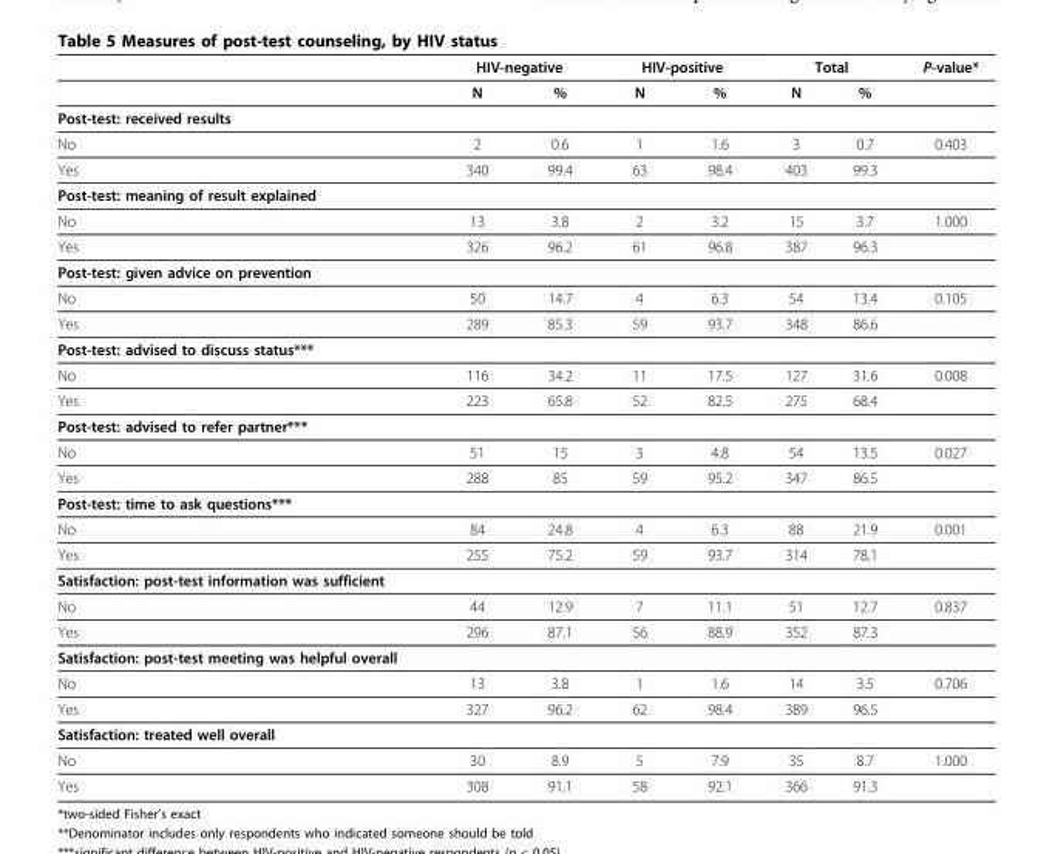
<table><thead><tr><td rowspan="2"></td><td colspan="2">HIV-negative</td><td colspan="2">HIV-positive</td><td colspan="2">Total</td><td rowspan="2">P-value*</td></tr><tr><td>N</td><td>%</td><td>N</td><td>%</td><td>N</td><td>%</td></tr></thead><tbody><tr><td colspan="8">Post-test: received results</td></tr><tr><td>No</td><td>2</td><td>0.6</td><td>1</td><td>1.6</td><td>3</td><td>0.7</td><td>0.403</td></tr><tr><td>Yes</td><td>340</td><td>99.4</td><td>63</td><td>98.4</td><td>403</td><td>99.3</td><td></td></tr><tr><td colspan="8">Post-test: meaning of result explained</td></tr><tr><td>No</td><td>13</td><td>3.8</td><td>2</td><td>3.2</td><td>15</td><td>3.7</td><td>1.000</td></tr><tr><td>Yes</td><td>326</td><td>96.2</td><td>61</td><td>96.8</td><td>387</td><td>96.3</td><td></td></tr><tr><td colspan="8">Post-test: given advice on prevention</td></tr><tr><td>No</td><td>50</td><td>14.7</td><td>4</td><td>6.3</td><td>54</td><td>13.4</td><td>0.105</td></tr><tr><td>Yes</td><td>289</td><td>85.3</td><td>59</td><td>93.7</td><td>348</td><td>86.6</td><td></td></tr><tr><td colspan="8">Post-test: advised to discuss status***</td></tr><tr><td>No</td><td>116</td><td>34.2</td><td>11</td><td>17.5</td><td>127</td><td>31.6</td><td>0.008</td></tr><tr><td>Yes</td><td>223</td><td>65.8</td><td>52</td><td>82.5</td><td>275</td><td>68.4</td><td></td></tr><tr><td colspan="8">Post-test: advised to refer partner***</td></tr><tr><td>No</td><td>51</td><td>15</td><td>3</td><td>4.8</td><td>54</td><td>13.5</td><td>0.027</td></tr><tr><td>Yes</td><td>288</td><td>85</td><td>59</td><td>95.2</td><td>347</td><td>86.5</td><td></td></tr><tr><td colspan="8">Post-test: time to ask questions***</td></tr><tr><td>No</td><td>84</td><td>24.8</td><td>4</td><td>6.3</td><td>88</td><td>21.9</td><td>0.001</td></tr><tr><td>Yes</td><td>255</td><td>75.2</td><td>59</td><td>93.7</td><td>314</td><td>78.1</td><td></td></tr><tr><td colspan="8">Satisfaction: post-test information was sufficient</td></tr><tr><td>No</td><td>44</td><td>12.9</td><td>7</td><td>11.1</td><td>51</td><td>12.7</td><td>0.837</td></tr><tr><td>Yes</td><td>296</td><td>87.1</td><td>56</td><td>88.9</td><td>352</td><td>87.3</td><td></td></tr><tr><td colspan="8">Satisfaction: post-test meeting was helpful overall</td></tr><tr><td>No</td><td>13</td><td>3.8</td><td>1</td><td>1.6</td><td>14</td><td>3.5</td><td>0.706</td></tr><tr><td>Yes</td><td>327</td><td>96.2</td><td>62</td><td>98.4</td><td>389</td><td>96.5</td><td></td></tr><tr><td colspan="8">Satisfaction: treated well overall</td></tr><tr><td>No</td><td>30</td><td>8.9</td><td>5</td><td>7.9</td><td>35</td><td>8.7</td><td>1.000</td></tr><tr><td>Yes</td><td>308</td><td>91.1</td><td>58</td><td>92.1</td><td>366</td><td>91.3</td><td></td></tr></tbody></table>